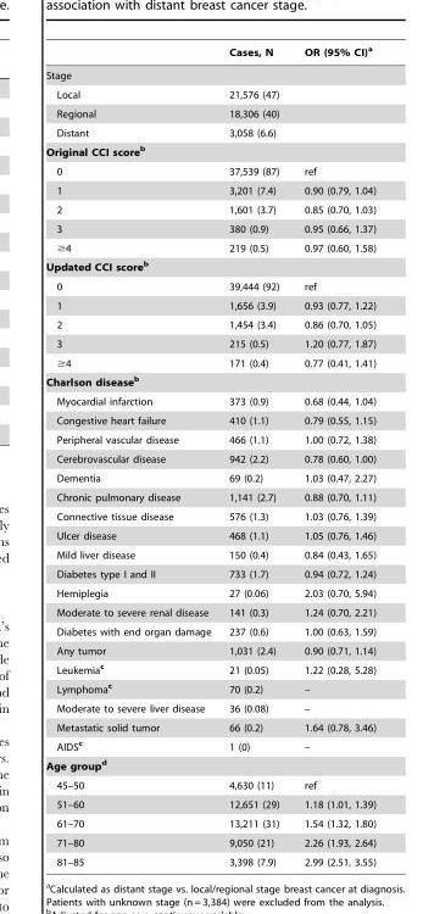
<table><thead><tr><td></td><td>Cases, N</td><td>OR (95% CI)<sup>a</sup></td></tr></thead><tbody><tr><td colspan="3">Stage</td></tr><tr><td>Local</td><td>21,576 (47)</td><td></td></tr><tr><td>Regional</td><td>18,306 (40)</td><td></td></tr><tr><td>Distant</td><td>3,058 (6.6)</td><td></td></tr><tr><td colspan="3">Original CCI scoreb</td></tr><tr><td>0</td><td>37,539 (87)</td><td>ref</td></tr><tr><td>1</td><td>3,201 (7.4)</td><td>0.90 (0.79, 1.04)</td></tr><tr><td>2</td><td>1,601 (3.7)</td><td>0.85 (0.70, 1.03)</td></tr><tr><td>3</td><td>380 (0.9)</td><td>0.95 (0.66, 1.37)</td></tr><tr><td>≥4</td><td>219 (0.5)</td><td>0.97 (0.60, 1.58)</td></tr><tr><td colspan="3">Updated CCI scoreb</td></tr><tr><td>0</td><td>39,444 (92)</td><td>ref</td></tr><tr><td>1</td><td>1,656 (3.9)</td><td>0.93 (0.77, 1.22)</td></tr><tr><td>2</td><td>1,454 (3.4)</td><td>0.86 (0.70, 1.05)</td></tr><tr><td>3</td><td>215 (0.5)</td><td>1.20 (0.77, 1.87)</td></tr><tr><td>≥4</td><td>171 (0.4)</td><td>0.77 (0.41, 1.41)</td></tr><tr><td colspan="3">Charlson diseaseb</td></tr><tr><td>Myocardial infarction</td><td>373 (0.9)</td><td>0.68 (0.44, 1.04)</td></tr><tr><td>Congestive heart failure</td><td>410 (1.1)</td><td>0.79 (0.55, 1.15)</td></tr><tr><td>Peripheral vascular disease</td><td>466 (1.1)</td><td>1.00 (0.72, 1.38)</td></tr><tr><td>Cerebrovascular disease</td><td>942 (2.2)</td><td>0.78 (0.60, 1.00)</td></tr><tr><td>Dementia</td><td>69 (0.2)</td><td>1.03 (0.47, 2.27)</td></tr><tr><td>Chronic pulmonary disease</td><td>1,141 (2.7)</td><td>0.88 (0.70, 1.11)</td></tr><tr><td>Connective tissue disease</td><td>576 (1.3)</td><td>1.03 (0.76, 1.39)</td></tr><tr><td>Ulcer disease</td><td>468 (1.1)</td><td>1.05 (0.76, 1.46)</td></tr><tr><td>Mild liver disease</td><td>150 (0.4)</td><td>0.84 (0.43, 1.65)</td></tr><tr><td>Diabetes type I and II</td><td>733 (1.7)</td><td>0.94 (0.72, 1.24)</td></tr><tr><td>Hemiplegia</td><td>27 (0.06)</td><td>2.03 (0.70, 5.94)</td></tr><tr><td>Moderate to severe renal disease</td><td>141 (0.3)</td><td>1.24 (0.70, 2.21)</td></tr><tr><td>Diabetes with end organ damage</td><td>237 (0.6)</td><td>1.00 (0.63, 1.59)</td></tr><tr><td>Any tumor</td><td>1,031 (2.4)</td><td>0.90 (0.71, 1.14)</td></tr><tr><td>Leukemia<sup>c</sup></td><td>21 (0.05)</td><td>1.22 (0.28, 5.28)</td></tr><tr><td>Lymphoma<sup>c</sup></td><td>70 (0.2)</td><td>–</td></tr><tr><td>Moderate to severe liver disease</td><td>36 (0.08)</td><td>–</td></tr><tr><td>Metastatic solid tumor</td><td>66 (0.2)</td><td>1.64 (0.78, 3.46)</td></tr><tr><td>AIDS<sup>c</sup></td><td>1 (0)</td><td>–</td></tr><tr><td colspan="3">Age groupd</td></tr><tr><td>45–50</td><td>4,630 (11)</td><td>ref</td></tr><tr><td>51–60</td><td>12,651 (29)</td><td>1.18 (1.01, 1.39)</td></tr><tr><td>61–70</td><td>13,211 (31)</td><td>1.54 (1.32, 1.80)</td></tr><tr><td>71–80</td><td>9,050 (21)</td><td>2.26 (1.93, 2.64)</td></tr><tr><td>81–85</td><td>3,398 (7.9)</td><td>2.99 (2.51, 3.55)</td></tr></tbody></table>